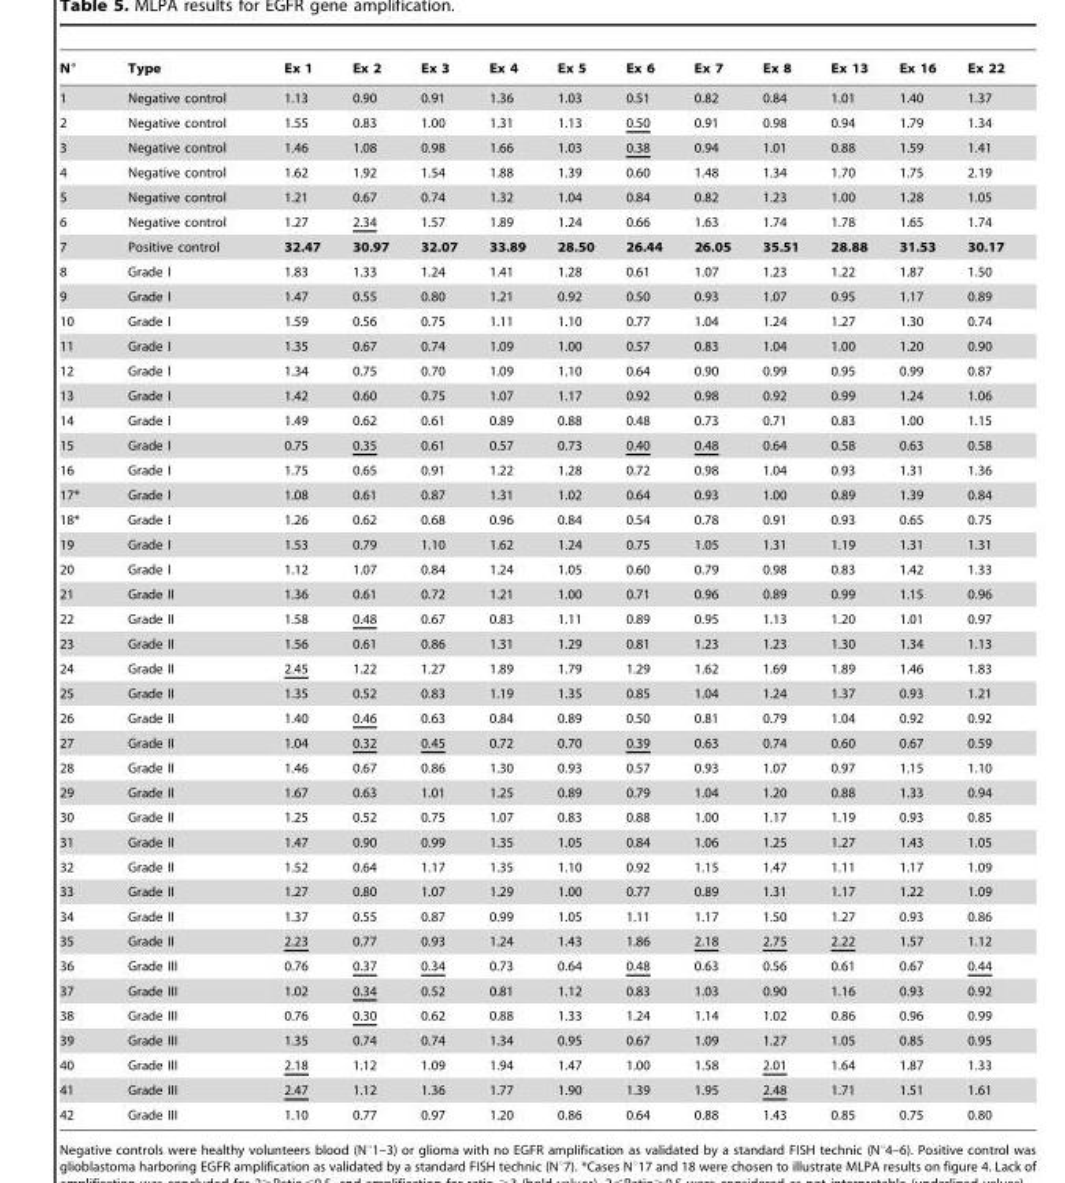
<table><thead><tr><td>N°</td><td>Type</td><td>Ex 1</td><td>Ex 2</td><td>Ex 3</td><td>Ex 4</td><td>Ex 5</td><td>Ex 6</td><td>Ex 7</td><td>Ex 8</td><td>Ex 13</td><td>Ex 16</td><td>Ex 22</td></tr></thead><tbody><tr><td>1</td><td>Negative control</td><td>1.13</td><td>0.90</td><td>0.91</td><td>1.36</td><td>1.03</td><td>0.51</td><td>0.82</td><td>0.84</td><td>1.01</td><td>1.40</td><td>1.37</td></tr><tr><td>2</td><td>Negative control</td><td>1.55</td><td>0.83</td><td>1.00</td><td>1.31</td><td>1.13</td><td>0.50</td><td>0.91</td><td>0.98</td><td>0.94</td><td>1.79</td><td>1.34</td></tr><tr><td>3</td><td>Negative control</td><td>1.46</td><td>1.08</td><td>0.98</td><td>1.66</td><td>1.03</td><td>0.38</td><td>0.94</td><td>1.01</td><td>0.88</td><td>1.59</td><td>1.41</td></tr><tr><td>4</td><td>Negative control</td><td>1.62</td><td>1.92</td><td>1.54</td><td>1.88</td><td>1.39</td><td>0.60</td><td>1.48</td><td>1.34</td><td>1.70</td><td>1.75</td><td>2.19</td></tr><tr><td>5</td><td>Negative control</td><td>1.21</td><td>0.67</td><td>0.74</td><td>1.32</td><td>1.04</td><td>0.84</td><td>0.82</td><td>1.23</td><td>1.00</td><td>1.28</td><td>1.05</td></tr><tr><td>6</td><td>Negative control</td><td>1.27</td><td>2.34</td><td>1.57</td><td>1.89</td><td>1.24</td><td>0.66</td><td>1.63</td><td>1.74</td><td>1.78</td><td>1.65</td><td>1.74</td></tr><tr><td>7</td><td>Positive control</td><td>32.47</td><td>30.97</td><td>32.07</td><td>33.89</td><td>28.50</td><td>26.44</td><td>26.05</td><td>35.51</td><td>28.88</td><td>31.53</td><td>30.17</td></tr><tr><td>8</td><td>Grade I</td><td>1.83</td><td>1.33</td><td>1.24</td><td>1.41</td><td>1.28</td><td>0.61</td><td>1.07</td><td>1.23</td><td>1.22</td><td>1.87</td><td>1.50</td></tr><tr><td>9</td><td>Grade I</td><td>1.47</td><td>0.55</td><td>0.80</td><td>1.21</td><td>0.92</td><td>0.50</td><td>0.93</td><td>1.07</td><td>0.95</td><td>1.17</td><td>0.89</td></tr><tr><td>10</td><td>Grade I</td><td>1.59</td><td>0.56</td><td>0.75</td><td>1.11</td><td>1.10</td><td>0.77</td><td>1.04</td><td>1.24</td><td>1.27</td><td>1.30</td><td>0.74</td></tr><tr><td>11</td><td>Grade I</td><td>1.35</td><td>0.67</td><td>0.74</td><td>1.09</td><td>1.00</td><td>0.57</td><td>0.83</td><td>1.04</td><td>1.00</td><td>1.20</td><td>0.90</td></tr><tr><td>12</td><td>Grade I</td><td>1.34</td><td>0.75</td><td>0.70</td><td>1.09</td><td>1.10</td><td>0.64</td><td>0.90</td><td>0.99</td><td>0.95</td><td>0.99</td><td>0.87</td></tr><tr><td>13</td><td>Grade I</td><td>1.42</td><td>0.60</td><td>0.75</td><td>1.07</td><td>1.17</td><td>0.92</td><td>0.98</td><td>0.92</td><td>0.99</td><td>1.24</td><td>1.06</td></tr><tr><td>14</td><td>Grade I</td><td>1.49</td><td>0.62</td><td>0.61</td><td>0.89</td><td>0.88</td><td>0.48</td><td>0.73</td><td>0.71</td><td>0.83</td><td>1.00</td><td>1.15</td></tr><tr><td>15</td><td>Grade I</td><td>0.75</td><td>0.35</td><td>0.61</td><td>0.57</td><td>0.73</td><td>0.40</td><td>0.48</td><td>0.64</td><td>0.58</td><td>0.63</td><td>0.58</td></tr><tr><td>16</td><td>Grade I</td><td>1.75</td><td>0.65</td><td>0.91</td><td>1.22</td><td>1.28</td><td>0.72</td><td>0.98</td><td>1.04</td><td>0.93</td><td>1.31</td><td>1.36</td></tr><tr><td>17*</td><td>Grade I</td><td>1.08</td><td>0.61</td><td>0.87</td><td>1.31</td><td>1.02</td><td>0.64</td><td>0.93</td><td>1.00</td><td>0.89</td><td>1.39</td><td>0.84</td></tr><tr><td>18*</td><td>Grade I</td><td>1.26</td><td>0.62</td><td>0.68</td><td>0.96</td><td>0.84</td><td>0.54</td><td>0.78</td><td>0.91</td><td>0.93</td><td>0.65</td><td>0.75</td></tr><tr><td>19</td><td>Grade I</td><td>1.53</td><td>0.79</td><td>1.10</td><td>1.62</td><td>1.24</td><td>0.75</td><td>1.05</td><td>1.31</td><td>1.19</td><td>1.31</td><td>1.31</td></tr><tr><td>20</td><td>Grade I</td><td>1.12</td><td>1.07</td><td>0.84</td><td>1.24</td><td>1.05</td><td>0.60</td><td>0.79</td><td>0.98</td><td>0.83</td><td>1.42</td><td>1.33</td></tr><tr><td>21</td><td>Grade II</td><td>1.36</td><td>0.61</td><td>0.72</td><td>1.21</td><td>1.00</td><td>0.71</td><td>0.96</td><td>0.89</td><td>0.99</td><td>1.15</td><td>0.96</td></tr><tr><td>22</td><td>Grade II</td><td>1.58</td><td>0.48</td><td>0.67</td><td>0.83</td><td>1.11</td><td>0.89</td><td>0.95</td><td>1.13</td><td>1.20</td><td>1.01</td><td>0.97</td></tr><tr><td>23</td><td>Grade II</td><td>1.56</td><td>0.61</td><td>0.86</td><td>1.31</td><td>1.29</td><td>0.81</td><td>1.23</td><td>1.23</td><td>1.30</td><td>1.34</td><td>1.13</td></tr><tr><td>24</td><td>Grade II</td><td>2.45</td><td>1.22</td><td>1.27</td><td>1.89</td><td>1.79</td><td>1.29</td><td>1.62</td><td>1.69</td><td>1.89</td><td>1.46</td><td>1.83</td></tr><tr><td>25</td><td>Grade II</td><td>1.35</td><td>0.52</td><td>0.83</td><td>1.19</td><td>1.35</td><td>0.85</td><td>1.04</td><td>1.24</td><td>1.37</td><td>0.93</td><td>1.21</td></tr><tr><td>26</td><td>Grade II</td><td>1.40</td><td>0.46</td><td>0.63</td><td>0.84</td><td>0.89</td><td>0.50</td><td>0.81</td><td>0.79</td><td>1.04</td><td>0.92</td><td>0.92</td></tr><tr><td>27</td><td>Grade II</td><td>1.04</td><td>0.32</td><td>0.45</td><td>0.72</td><td>0.70</td><td>0.39</td><td>0.63</td><td>0.74</td><td>0.60</td><td>0.67</td><td>0.59</td></tr><tr><td>28</td><td>Grade II</td><td>1.46</td><td>0.67</td><td>0.86</td><td>1.30</td><td>0.93</td><td>0.57</td><td>0.93</td><td>1.07</td><td>0.97</td><td>1.15</td><td>1.10</td></tr><tr><td>29</td><td>Grade II</td><td>1.67</td><td>0.63</td><td>1.01</td><td>1.25</td><td>0.89</td><td>0.79</td><td>1.04</td><td>1.20</td><td>0.88</td><td>1.33</td><td>0.94</td></tr><tr><td>30</td><td>Grade II</td><td>1.25</td><td>0.52</td><td>0.75</td><td>1.07</td><td>0.83</td><td>0.88</td><td>1.00</td><td>1.17</td><td>1.19</td><td>0.93</td><td>0.85</td></tr><tr><td>31</td><td>Grade II</td><td>1.47</td><td>0.90</td><td>0.99</td><td>1.35</td><td>1.05</td><td>0.84</td><td>1.06</td><td>1.25</td><td>1.27</td><td>1.43</td><td>1.05</td></tr><tr><td>32</td><td>Grade II</td><td>1.52</td><td>0.64</td><td>1.17</td><td>1.35</td><td>1.10</td><td>0.92</td><td>1.15</td><td>1.47</td><td>1.11</td><td>1.17</td><td>1.09</td></tr><tr><td>33</td><td>Grade II</td><td>1.27</td><td>0.80</td><td>1.07</td><td>1.29</td><td>1.00</td><td>0.77</td><td>0.89</td><td>1.31</td><td>1.17</td><td>1.22</td><td>1.09</td></tr><tr><td>34</td><td>Grade II</td><td>1.37</td><td>0.55</td><td>0.87</td><td>0.99</td><td>1.05</td><td>1.11</td><td>1.17</td><td>1.50</td><td>1.27</td><td>0.93</td><td>0.86</td></tr><tr><td>35</td><td>Grade II</td><td>2.23</td><td>0.77</td><td>0.93</td><td>1.24</td><td>1.43</td><td>1.86</td><td>2.18</td><td>2.75</td><td>2.22</td><td>1.57</td><td>1.12</td></tr><tr><td>36</td><td>Grade III</td><td>0.76</td><td>0.37</td><td>0.34</td><td>0.73</td><td>0.64</td><td>0.48</td><td>0.63</td><td>0.56</td><td>0.61</td><td>0.67</td><td>0.44</td></tr><tr><td>37</td><td>Grade III</td><td>1.02</td><td>0.34</td><td>0.52</td><td>0.81</td><td>1.12</td><td>0.83</td><td>1.03</td><td>0.90</td><td>1.16</td><td>0.93</td><td>0.92</td></tr><tr><td>38</td><td>Grade III</td><td>0.76</td><td>0.30</td><td>0.62</td><td>0.88</td><td>1.33</td><td>1.24</td><td>1.14</td><td>1.02</td><td>0.86</td><td>0.96</td><td>0.99</td></tr><tr><td>39</td><td>Grade III</td><td>1.35</td><td>0.74</td><td>0.74</td><td>1.34</td><td>0.95</td><td>0.67</td><td>1.09</td><td>1.27</td><td>1.05</td><td>0.85</td><td>0.95</td></tr><tr><td>40</td><td>Grade III</td><td>2.18</td><td>1.12</td><td>1.09</td><td>1.94</td><td>1.47</td><td>1.00</td><td>1.58</td><td>2.01</td><td>1.64</td><td>1.87</td><td>1.33</td></tr><tr><td>41</td><td>Grade III</td><td>2.47</td><td>1.12</td><td>1.36</td><td>1.77</td><td>1.90</td><td>1.39</td><td>1.95</td><td>2.48</td><td>1.71</td><td>1.51</td><td>1.61</td></tr><tr><td>42</td><td>Grade III</td><td>1.10</td><td>0.77</td><td>0.97</td><td>1.20</td><td>0.86</td><td>0.64</td><td>0.88</td><td>1.43</td><td>0.85</td><td>0.75</td><td>0.80</td></tr></tbody></table>